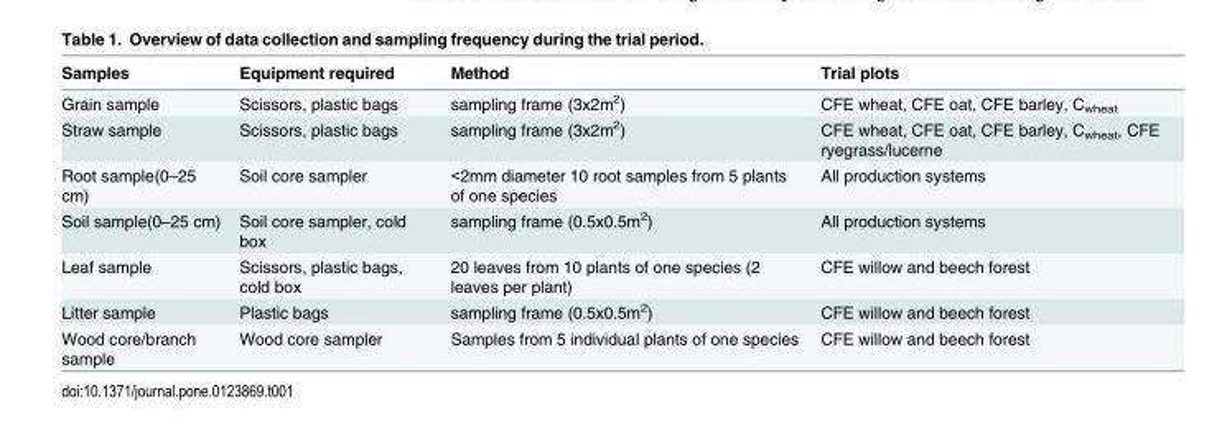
<table><thead><tr><td>Samples</td><td>Equipment required</td><td>Method</td><td>Trial plots</td></tr></thead><tbody><tr><td>Grain sample</td><td>Scissors, plastic bags</td><td>sampling frame (3x2m<sup>2</sup>)</td><td>CFE wheat, CFE oat, CFE barley, C<sub>wheat</sub></td></tr><tr><td>Straw sample</td><td>Scissors, plastic bags</td><td>sampling frame (3x2m<sup>2</sup>)</td><td>CFE wheat, CFE oat, CFE barley, C<sub>wheat</sub>, CFE ryegrass/lucerne</td></tr><tr><td>Root sample(0–25 cm)</td><td>Soil core sampler</td><td>&lt;2mm diameter 10 root samples from 5 plants of one species</td><td>All production systems</td></tr><tr><td>Soil sample(0–25 cm)</td><td>Soil core sampler, cold box</td><td>sampling frame (0.5x0.5m<sup>2</sup>)</td><td>All production systems</td></tr><tr><td>Leaf sample</td><td>Scissors, plastic bags, cold box</td><td>20 leaves from 10 plants of one species (2 leaves per plant)</td><td>CFE willow and beech forest</td></tr><tr><td>Litter sample</td><td>Plastic bags</td><td>sampling frame (0.5x0.5m<sup>2</sup>)</td><td>CFE willow and beech forest</td></tr><tr><td>Wood core/branch sample</td><td>Wood core sampler</td><td>Samples from 5 individual plants of one species</td><td>CFE willow and beech forest</td></tr></tbody></table>